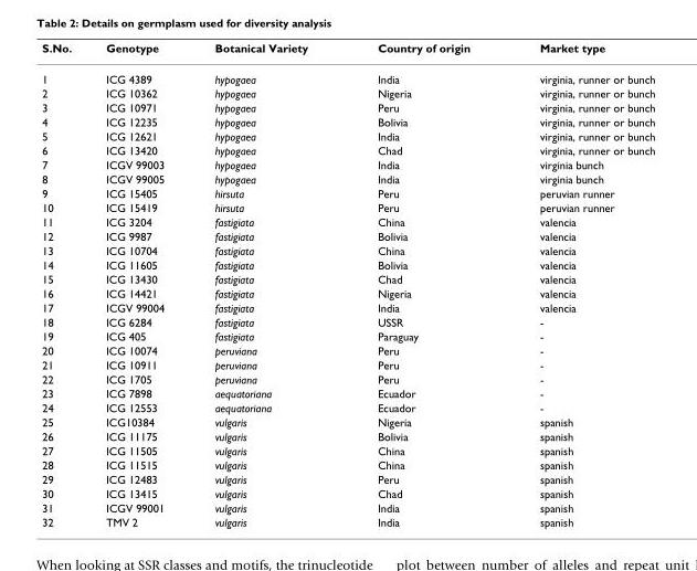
<table><thead><tr><td>S.No.</td><td>Genotype</td><td>Botanical Variety</td><td>Country of origin</td><td>Market type</td></tr></thead><tbody><tr><td>1</td><td>ICG 4389</td><td>hypogaea</td><td>India</td><td>virginia, runner or bunch</td></tr><tr><td>2</td><td>ICG 10362</td><td>hypogaea</td><td>Nigeria</td><td>virginia, runner or bunch</td></tr><tr><td>3</td><td>ICG 10971</td><td>hypogaea</td><td>Peru</td><td>virginia, runner or bunch</td></tr><tr><td>4</td><td>ICG 12235</td><td>hypogaea</td><td>Bolivia</td><td>virginia, runner or bunch</td></tr><tr><td>5</td><td>ICG 12621</td><td>hypogaea</td><td>India</td><td>virginia, runner or bunch</td></tr><tr><td>6</td><td>ICG 13420</td><td>hypogaea</td><td>Chad</td><td>virginia, runner or bunch</td></tr><tr><td>7</td><td>ICGV 99003</td><td>hypogaea</td><td>India</td><td>virginia bunch</td></tr><tr><td>8</td><td>ICGV 99005</td><td>hypogaea</td><td>India</td><td>virginia bunch</td></tr><tr><td>9</td><td>ICG 15405</td><td>hirsuta</td><td>Peru</td><td>peruvian runner</td></tr><tr><td>10</td><td>ICG 15419</td><td>hirsuta</td><td>Peru</td><td>peruvian runner</td></tr><tr><td>11</td><td>ICG 3204</td><td>fastigiata</td><td>China</td><td>valencia</td></tr><tr><td>12</td><td>ICG 9987</td><td>fastigiata</td><td>Bolivia</td><td>valencia</td></tr><tr><td>13</td><td>ICG 10704</td><td>fastigiata</td><td>China</td><td>valencia</td></tr><tr><td>14</td><td>ICG 11605</td><td>fastigiata</td><td>Bolivia</td><td>valencia</td></tr><tr><td>15</td><td>ICG 13430</td><td>fastigiata</td><td>Chad</td><td>valencia</td></tr><tr><td>16</td><td>ICG 14421</td><td>fastigiata</td><td>Nigeria</td><td>valencia</td></tr><tr><td>17</td><td>ICGV 99004</td><td>fastigiata</td><td>India</td><td>valencia</td></tr><tr><td>18</td><td>ICG 6284</td><td>fastigiata</td><td>USSR</td><td>-</td></tr><tr><td>19</td><td>ICG 405</td><td>fastigiata</td><td>Paraguay</td><td>-</td></tr><tr><td>20</td><td>ICG 10074</td><td>peruviana</td><td>Peru</td><td>-</td></tr><tr><td>21</td><td>ICG 10911</td><td>peruviana</td><td>Peru</td><td>-</td></tr><tr><td>22</td><td>ICG 1705</td><td>peruviana</td><td>Peru</td><td>-</td></tr><tr><td>23</td><td>ICG 7898</td><td>aequatoriana</td><td>Ecuador</td><td>-</td></tr><tr><td>24</td><td>ICG 12553</td><td>aequatoriana</td><td>Ecuador</td><td>-</td></tr><tr><td>25</td><td>ICG10384</td><td>vulgaris</td><td>Nigeria</td><td>spanish</td></tr><tr><td>26</td><td>ICG 11175</td><td>vulgaris</td><td>Bolivia</td><td>spanish</td></tr><tr><td>27</td><td>ICG 11505</td><td>vulgaris</td><td>China</td><td>spanish</td></tr><tr><td>28</td><td>ICG 11515</td><td>vulgaris</td><td>China</td><td>spanish</td></tr><tr><td>29</td><td>ICG 12483</td><td>vulgaris</td><td>Peru</td><td>spanish</td></tr><tr><td>30</td><td>ICG 13415</td><td>vulgaris</td><td>Chad</td><td>spanish</td></tr><tr><td>31</td><td>ICGV 99001</td><td>vulgaris</td><td>India</td><td>spanish</td></tr><tr><td>32</td><td>TMV 2</td><td>vulgaris</td><td>India</td><td>spanish</td></tr></tbody></table>